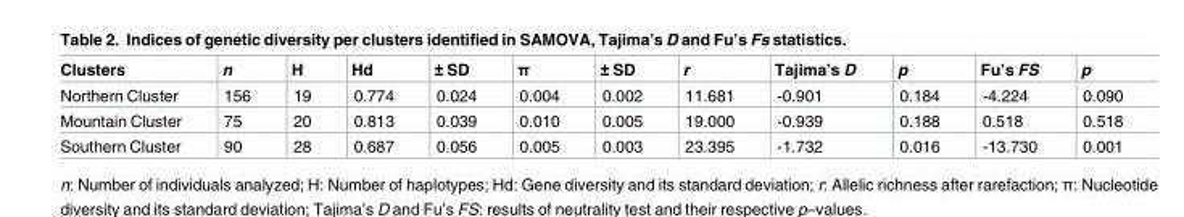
<table><thead><tr><td>Clusters</td><td>n</td><td>H</td><td>Hd</td><td>± SD</td><td>π</td><td>± SD</td><td>r</td><td>Tajima’s D</td><td>p</td><td>Fu’s FS</td><td>p</td></tr></thead><tbody><tr><td>Northern Cluster</td><td>156</td><td>19</td><td>0.774</td><td>0.024</td><td>0.004</td><td>0.002</td><td>11.681</td><td>-0.901</td><td>0.184</td><td>-4.224</td><td>0.090</td></tr><tr><td>Mountain Cluster</td><td>75</td><td>20</td><td>0.813</td><td>0.039</td><td>0.010</td><td>0.005</td><td>19.000</td><td>-0.939</td><td>0.188</td><td>0.518</td><td>0.518</td></tr><tr><td>Southern Cluster</td><td>90</td><td>28</td><td>0.687</td><td>0.056</td><td>0.005</td><td>0.003</td><td>23.395</td><td>-1.732</td><td>0.016</td><td>-13.730</td><td>0.001</td></tr></tbody></table>